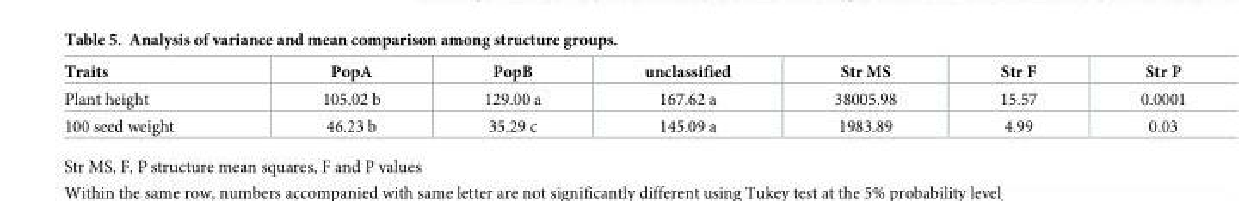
<table><thead><tr><td>Traits</td><td>PopA</td><td>PopB</td><td>unclassified</td><td>Str MS</td><td>Str F</td><td>Str P</td></tr></thead><tbody><tr><td>Plant height</td><td>105.02 b</td><td>129.00 a</td><td>167.62 a</td><td>38005.98</td><td>15.57</td><td>0.0001</td></tr><tr><td>100 seed weight</td><td>46.23 b</td><td>35.29 c</td><td>145.09 a</td><td>1983.89</td><td>4.99</td><td>0.03</td></tr></tbody></table>